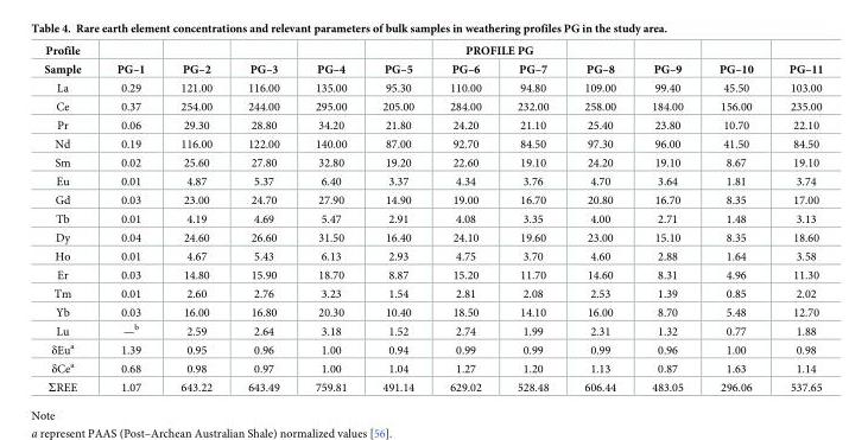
<table><thead><tr><td rowspan="2">Profile Sample</td><td rowspan="2">PG–1</td><td rowspan="2">PG–2</td><td rowspan="2">PG–3</td><td rowspan="2">PG–4</td><td rowspan="2">PG–5</td><td colspan="2">PROFILE PG</td><td rowspan="2">PG–8</td><td rowspan="2">PG–9</td><td rowspan="2">PG–10</td><td rowspan="2">PG–11</td></tr><tr><td>PG–6</td><td>PG–7</td></tr></thead><tbody><tr><td>La</td><td>0.29</td><td>121.00</td><td>116.00</td><td>135.00</td><td>95.30</td><td>110.00</td><td>94.80</td><td>109.00</td><td>99.40</td><td>45.50</td><td>103.00</td></tr><tr><td>Ce</td><td>0.37</td><td>254.00</td><td>244.00</td><td>295.00</td><td>205.00</td><td>284.00</td><td>232.00</td><td>258.00</td><td>184.00</td><td>156.00</td><td>235.00</td></tr><tr><td>Pr</td><td>0.06</td><td>29.30</td><td>28.80</td><td>34.20</td><td>21.80</td><td>24.20</td><td>21.10</td><td>25.40</td><td>23.80</td><td>10.70</td><td>22.10</td></tr><tr><td>Nd</td><td>0.19</td><td>116.00</td><td>122.00</td><td>140.00</td><td>87.00</td><td>92.70</td><td>84.50</td><td>97.30</td><td>96.00</td><td>41.50</td><td>84.50</td></tr><tr><td>Sm</td><td>0.02</td><td>25.60</td><td>27.80</td><td>32.80</td><td>19.20</td><td>22.60</td><td>19.10</td><td>24.20</td><td>19.10</td><td>8.67</td><td>19.10</td></tr><tr><td>Eu</td><td>0.01</td><td>4.87</td><td>5.37</td><td>6.40</td><td>3.37</td><td>4.34</td><td>3.76</td><td>4.70</td><td>3.64</td><td>1.81</td><td>3.74</td></tr><tr><td>Gd</td><td>0.03</td><td>23.00</td><td>24.70</td><td>27.90</td><td>14.90</td><td>19.00</td><td>16.70</td><td>20.80</td><td>16.70</td><td>8.35</td><td>17.00</td></tr><tr><td>Tb</td><td>0.01</td><td>4.19</td><td>4.69</td><td>5.47</td><td>2.91</td><td>4.08</td><td>3.35</td><td>4.00</td><td>2.71</td><td>1.48</td><td>3.13</td></tr><tr><td>Dy</td><td>0.04</td><td>24.60</td><td>26.60</td><td>31.50</td><td>16.40</td><td>24.10</td><td>19.60</td><td>23.00</td><td>15.10</td><td>8.35</td><td>18.60</td></tr><tr><td>Ho</td><td>0.01</td><td>4.67</td><td>5.43</td><td>6.13</td><td>2.93</td><td>4.75</td><td>3.70</td><td>4.60</td><td>2.88</td><td>1.64</td><td>3.58</td></tr><tr><td>Er</td><td>0.03</td><td>14.80</td><td>15.90</td><td>18.70</td><td>8.87</td><td>15.20</td><td>11.70</td><td>14.60</td><td>8.31</td><td>4.96</td><td>11.30</td></tr><tr><td>Tm</td><td>0.01</td><td>2.60</td><td>2.76</td><td>3.23</td><td>1.54</td><td>2.81</td><td>2.08</td><td>2.53</td><td>1.39</td><td>0.85</td><td>2.02</td></tr><tr><td>Yb</td><td>0.03</td><td>16.00</td><td>16.80</td><td>20.30</td><td>10.40</td><td>18.50</td><td>14.10</td><td>16.00</td><td>8.70</td><td>5.48</td><td>12.70</td></tr><tr><td>Lu</td><td>—<sup>b</sup></td><td>2.59</td><td>2.64</td><td>3.18</td><td>1.52</td><td>2.74</td><td>1.99</td><td>2.31</td><td>1.32</td><td>0.77</td><td>1.88</td></tr><tr><td>δEu<sup>a</sup></td><td>1.39</td><td>0.95</td><td>0.96</td><td>1.00</td><td>0.94</td><td>0.99</td><td>0.99</td><td>0.99</td><td>0.96</td><td>1.00</td><td>0.98</td></tr><tr><td>δCe<sup>a</sup></td><td>0.68</td><td>0.98</td><td>0.97</td><td>1.00</td><td>1.04</td><td>1.27</td><td>1.20</td><td>1.13</td><td>0.87</td><td>1.63</td><td>1.14</td></tr><tr><td>ΣREE</td><td>1.07</td><td>643.22</td><td>643.49</td><td>759.81</td><td>491.14</td><td>629.02</td><td>528.48</td><td>606.44</td><td>483.05</td><td>296.06</td><td>537.65</td></tr></tbody></table>